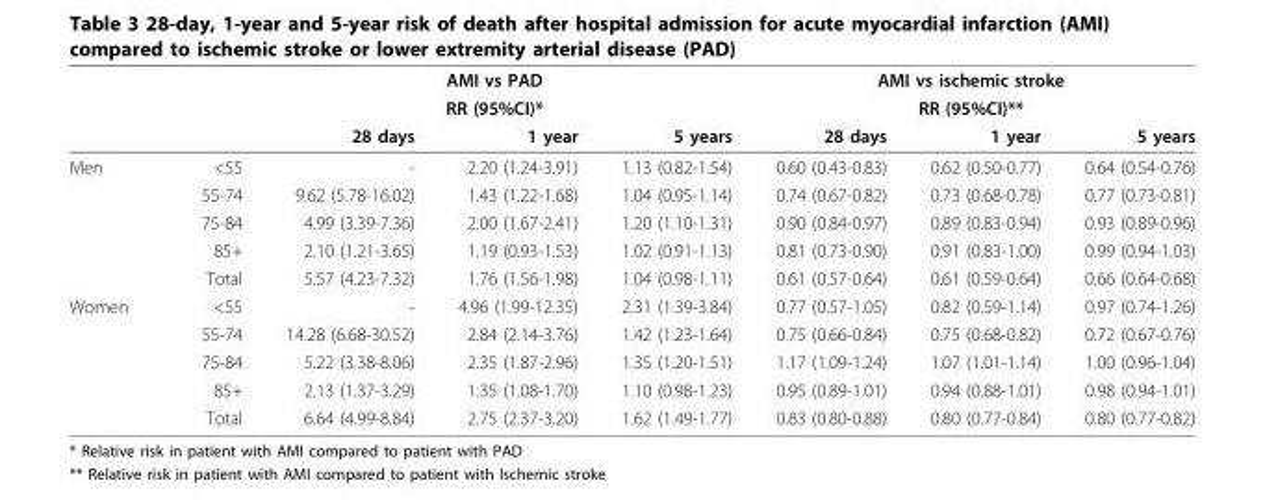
<table><thead><tr><td rowspan="3"></td><td rowspan="3"></td><td rowspan="2" colspan="3">AMI vs PAD RR (95%CI)*</td><td rowspan="2" colspan="3">AMI vs ischemic stroke RR (95%CI)**</td></tr><tr></tr><tr><td>28 days</td><td>1 year</td><td>5 years</td><td>28 days</td><td>1 year</td><td>5 years</td></tr></thead><tbody><tr><td rowspan="5">Men</td><td>&lt;55</td><td>-</td><td>2.20 (1.24-3.91)</td><td>1.13 (0.82-1.54)</td><td>0.60 (0.43-0.83)</td><td>0.62 (0.50-0.77)</td><td>0.64 (0.54-0.76)</td></tr><tr><td>55-74</td><td>9.62 (5.78-16.02)</td><td>1.43 (1.22-1.68)</td><td>1.04 (0.95-1.14)</td><td>0.74 (0.67-0.82)</td><td>0.73 (0.68-0.78)</td><td>0.77 (0.73-0.81)</td></tr><tr><td>75-84</td><td>4.99 (3.39-7.36)</td><td>2.00 (1.67-2.41)</td><td>1.20 (1.10-1.31)</td><td>0.90 (0.84-0.97)</td><td>0.89 (0.83-0.94)</td><td>0.93 (0.89-0.96)</td></tr><tr><td>85+</td><td>2.10 (1.21-3.65)</td><td>1.19 (0.93-1.53)</td><td>1.02 (0.91-1.13)</td><td>0.81 (0.73-0.90)</td><td>0.91 (0.83-1.00)</td><td>0.99 (0.94-1.03)</td></tr><tr><td>Total</td><td>5.57 (4.23-7.32)</td><td>1.76 (1.56-1.98)</td><td>1.04 (0.98-1.11)</td><td>0.61 (0.57-0.64)</td><td>0.61 (0.59-0.64)</td><td>0.66 (0.64-0.68)</td></tr><tr><td rowspan="5">Women</td><td>&lt;55</td><td>-</td><td>4.96 (1.99-12.35)</td><td>2.31 (1.39-3.84)</td><td>0.77 (0.57-1.05)</td><td>0.82 (0.59-1.14)</td><td>0.97 (0.74-1.26)</td></tr><tr><td>55-74</td><td>14.28 (6.68-30.52)</td><td>2.84 (2.14-3.76)</td><td>1.42 (1.23-1.64)</td><td>0.75 (0.66-0.84)</td><td>0.75 (0.68-0.82)</td><td>0.72 (0.67-0.76)</td></tr><tr><td>75-84</td><td>5.22 (3.38-8.06)</td><td>2.35 (1.87-2.96)</td><td>1.35 (1.20-1.51)</td><td>1.17 (1.09-1.24)</td><td>1.07 (1.01-1.14)</td><td>1.00 (0.96-1.04)</td></tr><tr><td>85+</td><td>2.13 (1.37-3.29)</td><td>1.35 (1.08-1.70)</td><td>1.10 (0.98-1.23)</td><td>0.95 (0.89-1.01)</td><td>0.94 (0.88-1.01)</td><td>0.98 (0.94-1.01)</td></tr><tr><td>Total</td><td>6.64 (4.99-8.84)</td><td>2.75 (2.37-3.20)</td><td>1.62 (1.49-1.77)</td><td>0.83 (0.80-0.88)</td><td>0.80 (0.77-0.84)</td><td>0.80 (0.77-0.82)</td></tr></tbody></table>